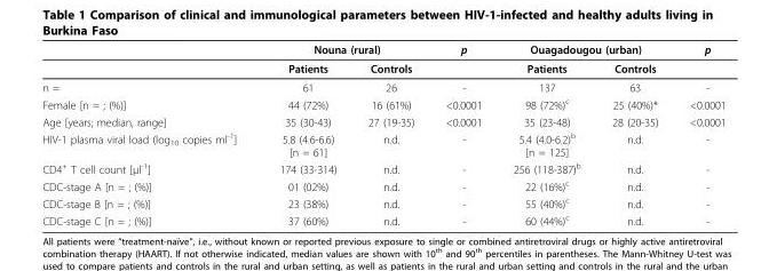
<table><thead><tr><td rowspan="2"></td><td colspan="2">Nouna (rural)</td><td rowspan="2">p</td><td colspan="2">Ouagadougou (urban)</td><td rowspan="2">p</td></tr><tr><td>Patients</td><td>Controls</td><td>Patients</td><td>Controls</td></tr></thead><tbody><tr><td>n =</td><td>61</td><td>26</td><td>-</td><td>137</td><td>63</td><td>-</td></tr><tr><td>Female [n = ; (%)]</td><td>44 (72%)</td><td>16 (61%)</td><td>&lt;0.0001</td><td>98 (72%)<sup>c</sup></td><td>25 (40%)*</td><td>&lt;0.0001</td></tr><tr><td>Age [years; median, range]</td><td>35 (30-43)</td><td>27 (19-35)</td><td>&lt;0.0001</td><td>35 (23-48)</td><td>28 (20-35)</td><td>&lt;0.0001</td></tr><tr><td>HIV-1 plasma viral load (log<sub>10</sub> copies ml<sup>-1</sup>]</td><td>5.8 (4.6-6.6) [n = 61]</td><td>n.d.</td><td>-</td><td>5.4 (4.0-6.2)<sup>b</sup> [n = 125]</td><td>n.d.</td><td>-</td></tr><tr><td>CD4<sup>+</sup> T cell count [μl<sup>-1</sup>]</td><td>174 (33-314)</td><td>n.d.</td><td>-</td><td>256 (118-387)<sup>b</sup></td><td>n.d.</td><td>-</td></tr><tr><td>CDC-stage A [n = ; (%)]</td><td>01 (02%)</td><td>n.d.</td><td>-</td><td>22 (16%)<sup>c</sup></td><td>n.d.</td><td>-</td></tr><tr><td>CDC-stage B [n = ; (%)]</td><td>23 (38%)</td><td>n.d.</td><td>-</td><td>55 (40%)<sup>c</sup></td><td>n.d.</td><td>-</td></tr><tr><td>CDC-stage C [n = ; (%)]</td><td>37 (60%)</td><td>n.d.</td><td>-</td><td>60 (44%)<sup>c</sup></td><td>n.d.</td><td>-</td></tr></tbody></table>